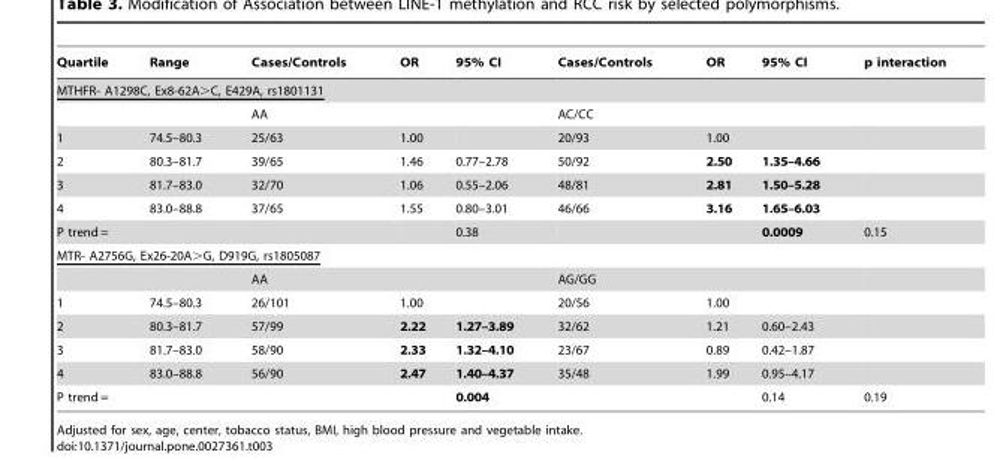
<table><thead><tr><td>Quartile</td><td>Range</td><td>Cases/Controls</td><td>OR</td><td>95% CI</td><td>Cases/Controls</td><td>OR</td><td>95% CI</td><td>p interaction</td></tr></thead><tbody><tr><td colspan="9">MTHFR- A1298C, Ex8-62A&gt;C, E429A, rs1801131</td></tr><tr><td></td><td></td><td colspan="3">AA</td><td colspan="3">AC/CC</td><td></td></tr><tr><td>1</td><td>74.5–80.3</td><td>25/63</td><td>1.00</td><td></td><td>20/93</td><td>1.00</td><td></td><td></td></tr><tr><td>2</td><td>80.3–81.7</td><td>39/65</td><td>1.46</td><td>0.77–2.78</td><td>50/92</td><td>2.50</td><td>1.35–4.66</td><td></td></tr><tr><td>3</td><td>81.7–83.0</td><td>32/70</td><td>1.06</td><td>0.55–2.06</td><td>48/81</td><td>2.81</td><td>1.50–5.28</td><td></td></tr><tr><td>4</td><td>83.0–88.8</td><td>37/65</td><td>1.55</td><td>0.80–3.01</td><td>46/66</td><td>3.16</td><td>1.65–6.03</td><td></td></tr><tr><td>P trend =</td><td></td><td></td><td></td><td>0.38</td><td></td><td></td><td>0.0009</td><td>0.15</td></tr><tr><td colspan="9">MTR- A2756G, Ex26-20A&gt;G, D919G, rs1805087</td></tr><tr><td></td><td></td><td colspan="3">AA</td><td colspan="3">AG/GG</td><td></td></tr><tr><td>1</td><td>74.5–80.3</td><td>26/101</td><td>1.00</td><td></td><td>20/56</td><td>1.00</td><td></td><td></td></tr><tr><td>2</td><td>80.3–81.7</td><td>57/99</td><td>2.22</td><td>1.27–3.89</td><td>32/62</td><td>1.21</td><td>0.60–2.43</td><td></td></tr><tr><td>3</td><td>81.7–83.0</td><td>58/90</td><td>2.33</td><td>1.32–4.10</td><td>23/67</td><td>0.89</td><td>0.42–1.87</td><td></td></tr><tr><td>4</td><td>83.0–88.8</td><td>56/90</td><td>2.47</td><td>1.40–4.37</td><td>35/48</td><td>1.99</td><td>0.95–4.17</td><td></td></tr><tr><td>P trend =</td><td></td><td></td><td></td><td>0.004</td><td></td><td></td><td>0.14</td><td>0.19</td></tr></tbody></table>